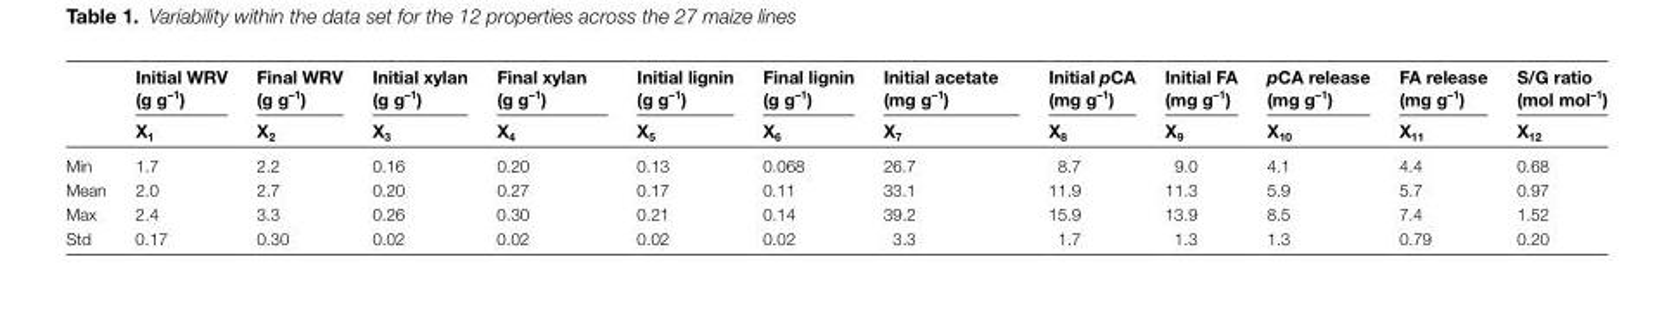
<table><thead><tr><td rowspan="2"></td><td rowspan="2">Initial WRV (g g<sup>–1</sup>) X<sub>1</sub></td><td rowspan="2">Final WRV (g g<sup>–1</sup>) X<sub>2</sub></td><td rowspan="2">Initial xylan (g g<sup>–1</sup>) X<sub>3</sub></td><td rowspan="2">Final xylan (g g<sup>–1</sup>) X<sub>4</sub></td><td rowspan="2">Initial lignin (g g<sup>–1</sup>) X<sub>5</sub></td><td rowspan="2">Final lignin (g g<sup>–1</sup>) X<sub>6</sub></td><td rowspan="2">Initial acetate (mg g<sup>–1</sup>) X<sub>7</sub></td><td rowspan="2">Initial pCA (mg g<sup>–1</sup>) X<sub>8</sub></td><td rowspan="2">Initial FA (mg g<sup>–1</sup>) X<sub>9</sub></td><td rowspan="2">pCA release (mg g<sup>–1</sup>) X<sub>10</sub></td><td rowspan="2">FA release (mg g<sup>–1</sup>) X<sub>11</sub></td><td rowspan="2">S/G ratio (mol mol<sup>–1</sup>) X<sub>12</sub></td></tr><tr></tr></thead><tbody><tr><td>Min</td><td>1.7</td><td>2.2</td><td>0.16</td><td>0.20</td><td>0.13</td><td>0.068</td><td>26.7</td><td>8.7</td><td>9.0</td><td>4.1</td><td>4.4</td><td>0.68</td></tr><tr><td>Mean</td><td>2.0</td><td>2.7</td><td>0.20</td><td>0.27</td><td>0.17</td><td>0.11</td><td>33.1</td><td>11.9</td><td>11.3</td><td>5.9</td><td>5.7</td><td>0.97</td></tr><tr><td>Max</td><td>2.4</td><td>3.3</td><td>0.26</td><td>0.30</td><td>0.21</td><td>0.14</td><td>39.2</td><td>15.9</td><td>13.9</td><td>8.5</td><td>7.4</td><td>1.52</td></tr><tr><td>Std</td><td>0.17</td><td>0.30</td><td>0.02</td><td>0.02</td><td>0.02</td><td>0.02</td><td>3.3</td><td>1.7</td><td>1.3</td><td>1.3</td><td>0.79</td><td>0.20</td></tr></tbody></table>